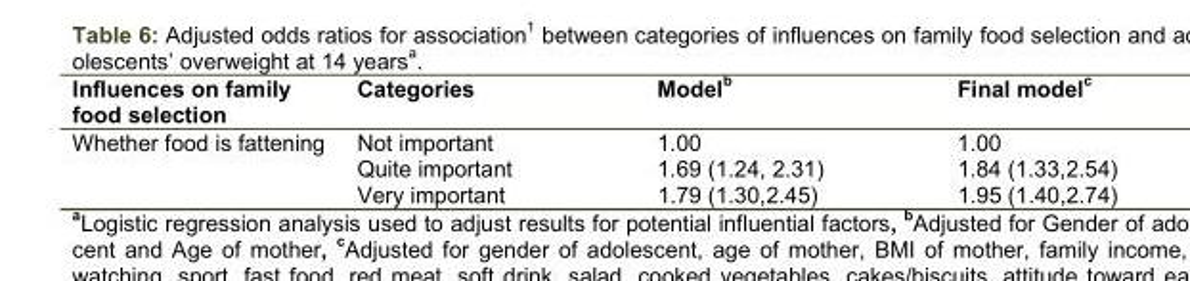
<table><thead><tr><td>Influences on family food selection</td><td>Categories</td><td>Model<sup>b</sup></td><td>Final modelc</td></tr></thead><tbody><tr><td rowspan="3">Whether food is fattening</td><td>Not important</td><td>1.00</td><td>1.00</td></tr><tr><td>Quite important</td><td>1.69 (1.24, 2.31)</td><td>1.84 (1.33,2.54)</td></tr><tr><td>Very important</td><td>1.79 (1.30,2.45)</td><td>1.95 (1.40,2.74)</td></tr></tbody></table>